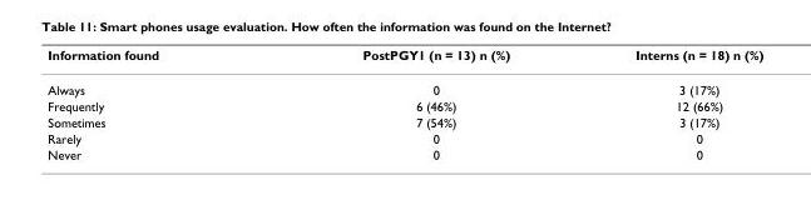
<table><thead><tr><td>Information found</td><td>PostPGY1 (n = 13) n (%)</td><td>Interns (n = 18) n (%)</td></tr></thead><tbody><tr><td>Always</td><td>0</td><td>3 (17%)</td></tr><tr><td>Frequently</td><td>6 (46%)</td><td>12 (66%)</td></tr><tr><td>Sometimes</td><td>7 (54%)</td><td>3 (17%)</td></tr><tr><td>Rarely</td><td>0</td><td>0</td></tr><tr><td>Never</td><td>0</td><td>0</td></tr></tbody></table>